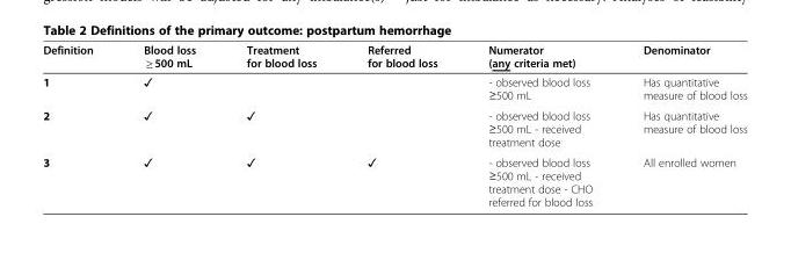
<table><thead><tr><td>Definition</td><td>Blood loss ≥ 500 mL</td><td>Treatment for blood loss</td><td>Referred for blood loss</td><td>Numerator (any criteria met)</td><td>Denominator</td></tr></thead><tbody><tr><td>1</td><td>✓</td><td></td><td></td><td>- observed blood loss ≥500 mL</td><td>Has quantitative measure of blood loss</td></tr><tr><td>2</td><td>✓</td><td>✓</td><td></td><td>- observed blood loss ≥500 mL - received treatment dose</td><td>Has quantitative measure of blood loss</td></tr><tr><td>3</td><td>✓</td><td>✓</td><td>✓</td><td>- observed blood loss ≥500 mL - received treatment dose - CHO referred for blood loss</td><td>All enrolled women</td></tr></tbody></table>